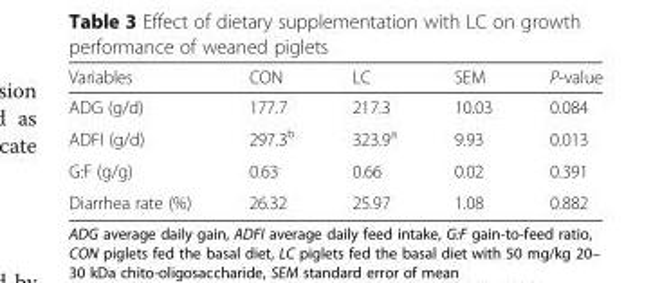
<table><thead><tr><td>Variables</td><td>CON</td><td>LC</td><td>SEM</td><td>P-value</td></tr></thead><tbody><tr><td>ADG (g/d)</td><td>177.7</td><td>217.3</td><td>10.03</td><td>0.084</td></tr><tr><td>ADFI (g/d)</td><td>297.3<sup>b</sup></td><td>323.9<sup>a</sup></td><td>9.93</td><td>0.013</td></tr><tr><td>G:F (g/g)</td><td>0.63</td><td>0.66</td><td>0.02</td><td>0.391</td></tr><tr><td>Diarrhea rate (%)</td><td>26.32</td><td>25.97</td><td>1.08</td><td>0.882</td></tr></tbody></table>